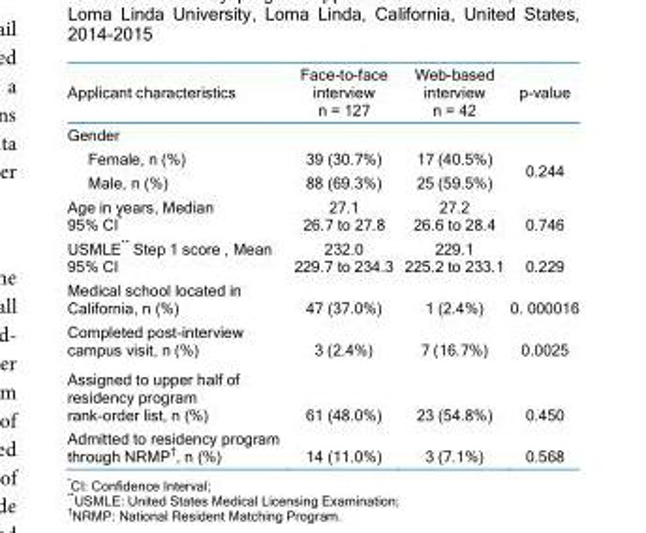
<table><thead><tr><td>Applicant characteristics</td><td>Face-to-face interview n = 127</td><td>Web-based interview n = 42</td><td>p-value</td></tr></thead><tbody><tr><td colspan="4">Gender</td></tr><tr><td>Female, n (%)</td><td>39 (30.7%)</td><td>17 (40.5%)</td><td rowspan="2">0.244</td></tr><tr><td>Male, n (%)</td><td>88 (69.3%)</td><td>25 (59.5%)</td></tr><tr><td>Age in years, Median 95% CI*</td><td>27.1 26.7 to 27.8</td><td>27.2 26.6 to 28.4</td><td>0.746</td></tr><tr><td>USMLE** Step 1 score , Mean 95% CI</td><td>232.0 229.7 to 234.3</td><td>229.1 225.2 to 233.1</td><td>0.229</td></tr><tr><td>Medical school located in California, n (%)</td><td>47 (37.0%)</td><td>1 (2.4%)</td><td>0. 000016</td></tr><tr><td>Completed post-interview campus visit, n (%)</td><td>3 (2.4%)</td><td>7 (16.7%)</td><td>0.0025</td></tr><tr><td>Assigned to upper half of residency program rank-order list, n (%)</td><td>61 (48.0%)</td><td>23 (54.8%)</td><td>0.450</td></tr><tr><td>Admitted to residency program through NRMP<sup>†</sup>, n (%)</td><td>14 (11.0%)</td><td>3 (7.1%)</td><td>0.568</td></tr></tbody></table>